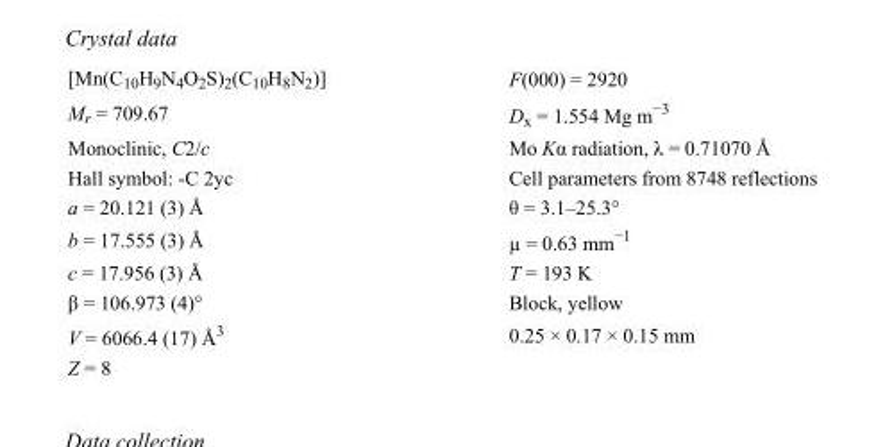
<table><tbody><tr><td>[Mn(C<sub>10</sub>H<sub>9</sub>N<sub>4</sub>O<sub>2</sub>S)<sub>2</sub>(C<sub>10</sub>H<sub>8</sub>N<sub>2</sub>)]</td><td>F(000) = 2920</td></tr><tr><td>M<sub>r</sub> = 709.67</td><td>D<sub>x</sub> = 1.554 Mg m<sup>−3</sup></td></tr><tr><td>Monoclinic, C2/c</td><td>Mo Kα radiation, λ = 0.71070 Å</td></tr><tr><td>Hall symbol: -C 2yc</td><td>Cell parameters from 8748 reflections</td></tr><tr><td>a = 20.121 (3) Å</td><td>θ = 3.1–25.3°</td></tr><tr><td>b = 17.555 (3) Å</td><td>µ = 0.63 mm<sup>−1</sup></td></tr><tr><td>c = 17.956 (3) Å</td><td>T = 193 K</td></tr><tr><td>β = 106.973 (4)°</td><td>Block, yellow</td></tr><tr><td>V = 6066.4 (17) Å<sup>3</sup></td><td>0.25 × 0.17 × 0.15 mm</td></tr><tr><td>Z = 8</td><td></td></tr></tbody></table>